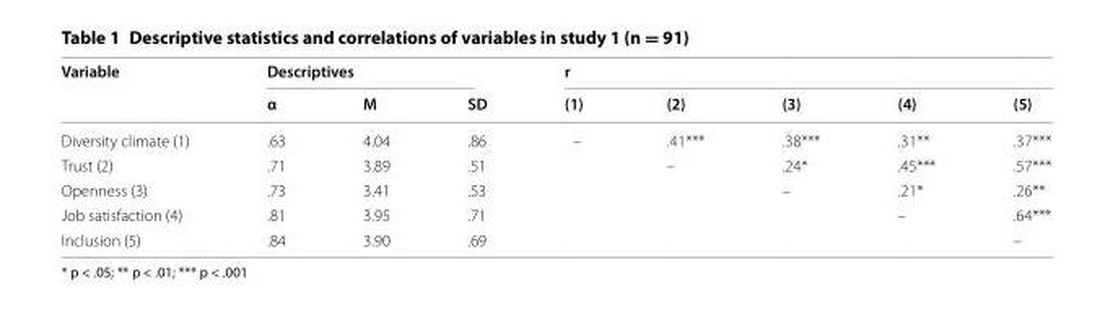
<table><thead><tr><td rowspan="2">Variable</td><td colspan="3">Descriptives</td><td colspan="5">r</td></tr><tr><td>α</td><td>M</td><td>SD</td><td>(1)</td><td>(2)</td><td>(3)</td><td>(4)</td><td>(5)</td></tr></thead><tbody><tr><td>Diversity climate (1)</td><td>.63</td><td>4.04</td><td>.86</td><td>–</td><td>.41***</td><td>.38***</td><td>.31**</td><td>.37***</td></tr><tr><td>Trust (2)</td><td>.71</td><td>3.89</td><td>.51</td><td></td><td>–</td><td>.24*</td><td>.45***</td><td>.57***</td></tr><tr><td>Openness (3)</td><td>.73</td><td>3.41</td><td>.53</td><td></td><td></td><td>–</td><td>.21*</td><td>.26**</td></tr><tr><td>Job satisfaction (4)</td><td>.81</td><td>3.95</td><td>.71</td><td></td><td></td><td></td><td>–</td><td>.64***</td></tr><tr><td>Inclusion (5)</td><td>.84</td><td>3.90</td><td>.69</td><td></td><td></td><td></td><td></td><td>–</td></tr></tbody></table>